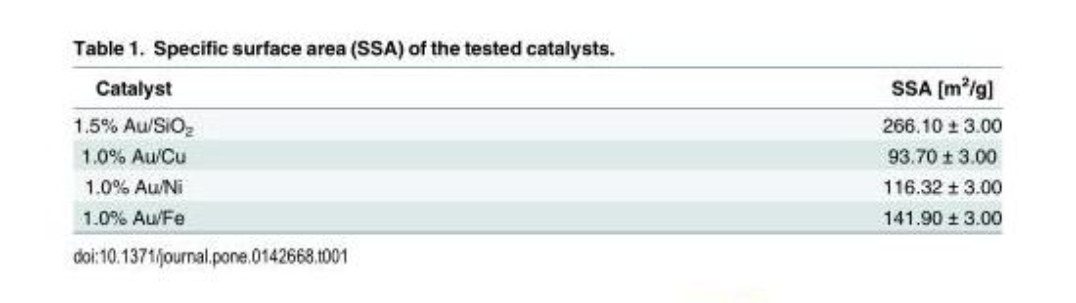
<table><thead><tr><td>Catalyst</td><td>SSA [m<sup>2</sup>/g]</td></tr></thead><tbody><tr><td>1.5% Au/SiO<sub>2</sub></td><td>266.10 ± 3.00</td></tr><tr><td>1.0% Au/Cu</td><td>93.70 ± 3.00</td></tr><tr><td>1.0% Au/Ni</td><td>116.32 ± 3.00</td></tr><tr><td>1.0% Au/Fe</td><td>141.90 ± 3.00</td></tr></tbody></table>